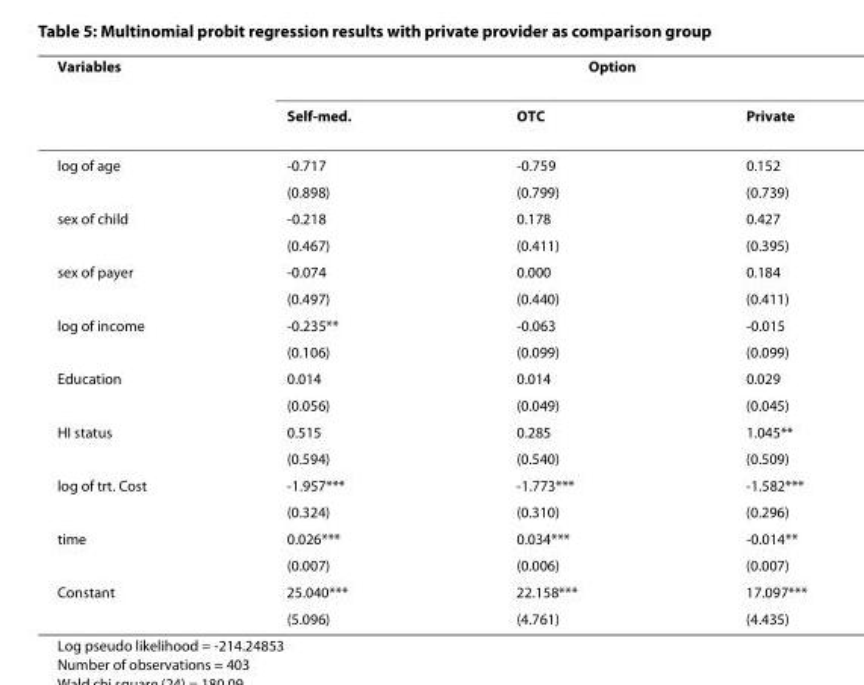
<table><thead><tr><td rowspan="2">Variables</td><td colspan="3">Option</td></tr><tr><td>Self-med.</td><td>OTC</td><td>Private</td></tr></thead><tbody><tr><td rowspan="2">log of age</td><td>-0.717</td><td>-0.759</td><td>0.152</td></tr><tr><td>(0.898)</td><td>(0.799)</td><td>(0.739)</td></tr><tr><td rowspan="2">sex of child</td><td>-0.218</td><td>0.178</td><td>0.427</td></tr><tr><td>(0.467)</td><td>(0.411)</td><td>(0.395)</td></tr><tr><td rowspan="2">sex of payer</td><td>-0.074</td><td>0.000</td><td>0.184</td></tr><tr><td>(0.497)</td><td>(0.440)</td><td>(0.411)</td></tr><tr><td rowspan="2">log of income</td><td>-0.235**</td><td>-0.063</td><td>-0.015</td></tr><tr><td>(0.106)</td><td>(0.099)</td><td>(0.099)</td></tr><tr><td rowspan="2">Education</td><td>0.014</td><td>0.014</td><td>0.029</td></tr><tr><td>(0.056)</td><td>(0.049)</td><td>(0.045)</td></tr><tr><td rowspan="2">HI status</td><td>0.515</td><td>0.285</td><td>1.045**</td></tr><tr><td>(0.594)</td><td>(0.540)</td><td>(0.509)</td></tr><tr><td rowspan="2">log of trt. Cost</td><td>-1.957***</td><td>-1.773***</td><td>-1.582***</td></tr><tr><td>(0.324)</td><td>(0.310)</td><td>(0.296)</td></tr><tr><td rowspan="2">time</td><td>0.026***</td><td>0.034***</td><td>-0.014**</td></tr><tr><td>(0.007)</td><td>(0.006)</td><td>(0.007)</td></tr><tr><td rowspan="2">Constant</td><td>25.040***</td><td>22.158***</td><td>17.097***</td></tr><tr><td>(5.096)</td><td>(4.761)</td><td>(4.435)</td></tr></tbody></table>